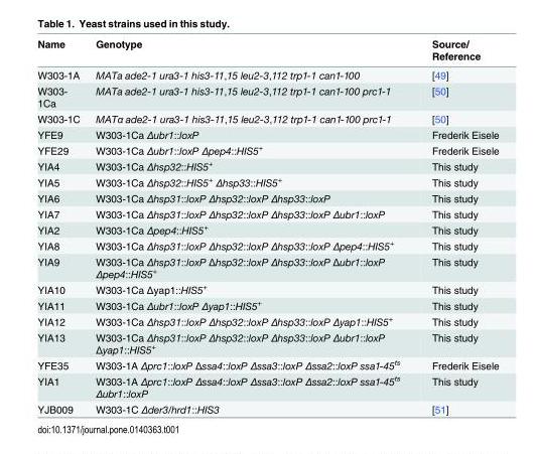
<table><thead><tr><td>Name</td><td>Genotype</td><td>Source/ Reference</td></tr></thead><tbody><tr><td>W303-1A</td><td>MATa ade2-1 ura3-1 his3-11,15 leu2-3,112 trp1-1 can1-100</td><td>[49]</td></tr><tr><td>W303- 1Ca</td><td>MATa ade2-1 ura3-1 his3-11,15 leu2-3,112 trp1-1 can1-100 prc1-1</td><td>[50]</td></tr><tr><td>W303-1C</td><td>MATα ade2-1 ura3-1 his3-11,15 leu2-3,112 trp1-1 can1-100 prc1-1</td><td>[50]</td></tr><tr><td>YFE9</td><td>W303-1Ca Δubr1::loxP</td><td>Frederik Eisele</td></tr><tr><td>YFE29</td><td>W303-1Ca Δubr1::loxP Δpep4::HIS5<sup>+</sup></td><td>Frederik Eisele</td></tr><tr><td>YIA4</td><td>W303-1Ca Δhsp32::HIS5<sup>+</sup></td><td>This study</td></tr><tr><td>YIA5</td><td>W303-1Ca Δhsp32::HIS5<sup>+</sup> Δhsp33::HIS5<sup>+</sup></td><td>This study</td></tr><tr><td>YIA6</td><td>W303-1Ca Δhsp31::loxP Δhsp32::loxP Δhsp33::loxP</td><td>This study</td></tr><tr><td>YIA7</td><td>W303-1Ca Δhsp31::loxP Δhsp32::loxP Δhsp33::loxP Δubr1::loxP</td><td>This study</td></tr><tr><td>YIA2</td><td>W303-1Ca Δpep4::HIS5<sup>+</sup></td><td>This study</td></tr><tr><td>YIA8</td><td>W303-1Ca Δhsp31::loxP Δhsp32::loxP Δhsp33::loxP Δpep4::HIS5<sup>+</sup></td><td>This study</td></tr><tr><td>YIA9</td><td>W303-1Ca Δhsp31::loxP Δhsp32::loxP Δhsp33::loxP Δubr1::loxP Δpep4::HIS5<sup>+</sup></td><td>This study</td></tr><tr><td>YIA10</td><td>W303-1Ca Δyap1::HIS5<sup>+</sup></td><td>This study</td></tr><tr><td>YIA11</td><td>W303-1Ca Δubr1::loxP Δyap1::HIS5<sup>+</sup></td><td>This study</td></tr><tr><td>YIA12</td><td>W303-1Ca Δhsp31::loxP Δhsp32::loxP Δhsp33::loxP Δyap1::HIS5<sup>+</sup></td><td>This study</td></tr><tr><td>YIA13</td><td>W303-1Ca Δhsp31::loxP Δhsp32::loxP Δhsp33::loxP Δubr1::loxP Δyap1::HIS5<sup>+</sup></td><td>This study</td></tr><tr><td>YFE35</td><td>W303-1A Δprc1::loxP Δssa4::loxP Δssa3::loxP Δssa2::loxP ssa1-45<sup>ts</sup></td><td>Frederik Eisele</td></tr><tr><td>YIA1</td><td>W303-1A Δprc1::loxP Δssa4::loxP Δssa3::loxP Δssa2::loxP ssa1-45<sup>ts</sup> Δubr1::loxP</td><td>This study</td></tr><tr><td>YJB009</td><td>W303-1C Δder3/hrd1::HIS3</td><td>[51]</td></tr></tbody></table>